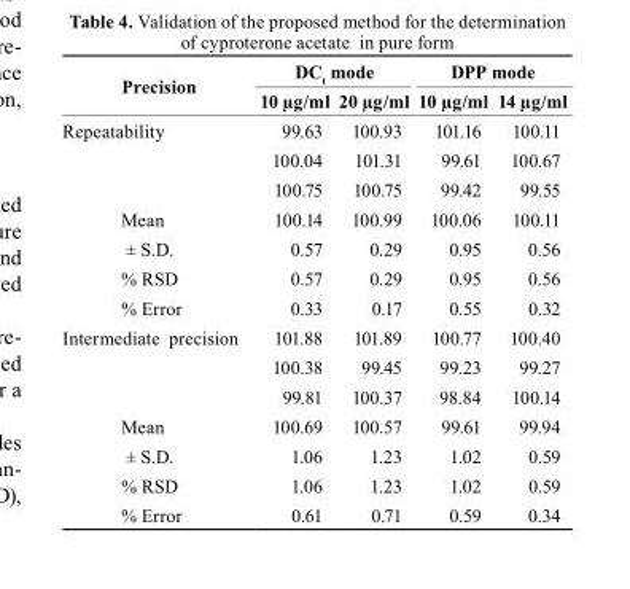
<table><thead><tr><td rowspan="2">Precision</td><td colspan="2">Dc<sub>t</sub> mode</td><td colspan="2">DPP mode</td></tr><tr><td>10 µg/ml</td><td>20 µg/ml</td><td>10 µg/ml</td><td>14 µg/ml</td></tr></thead><tbody><tr><td rowspan="3">Repeatability</td><td>99.63</td><td>100.93</td><td>101.16</td><td>100.11</td></tr><tr><td>100.04</td><td>101.31</td><td>99.61</td><td>100.67</td></tr><tr><td>100.75</td><td>100.75</td><td>99.42</td><td>99.55</td></tr><tr><td>Mean</td><td>100.14</td><td>100.99</td><td>100.06</td><td>100.11</td></tr><tr><td>± S.D.</td><td>0.57</td><td>0.29</td><td>0.95</td><td>0.56</td></tr><tr><td>% RSD</td><td>0.57</td><td>0.29</td><td>0.95</td><td>0.56</td></tr><tr><td>% Error</td><td>0.33</td><td>0.17</td><td>0.55</td><td>0.32</td></tr><tr><td rowspan="3">Intermediate precision</td><td>101.88</td><td>101.89</td><td>100.77</td><td>100.40</td></tr><tr><td>100.38</td><td>99.45</td><td>99.23</td><td>99.27</td></tr><tr><td>99.81</td><td>100.37</td><td>98.84</td><td>100.14</td></tr><tr><td>Mean</td><td>100.69</td><td>100.57</td><td>99.61</td><td>99.94</td></tr><tr><td>± S.D.</td><td>1.06</td><td>1.23</td><td>1.02</td><td>0.59</td></tr><tr><td>% RSD</td><td>1.06</td><td>1.23</td><td>1.02</td><td>0.59</td></tr><tr><td>% Error</td><td>0.61</td><td>0.71</td><td>0.59</td><td>0.34</td></tr></tbody></table>